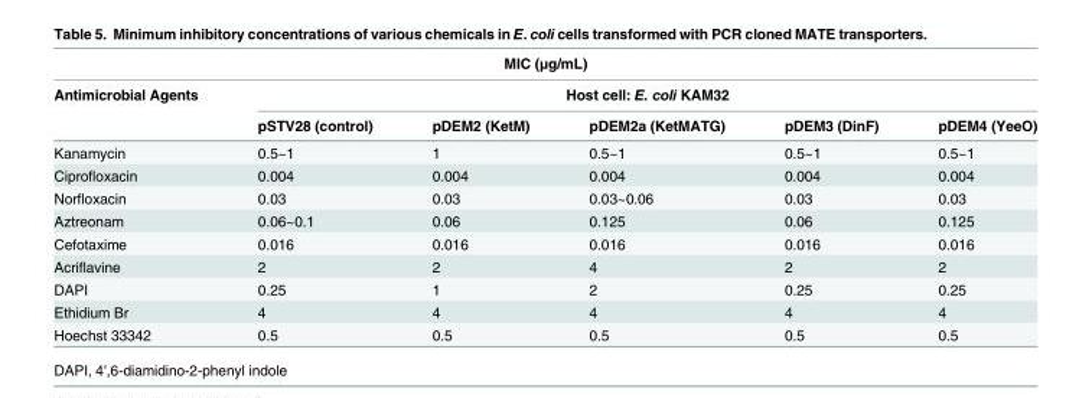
<table><thead><tr><td colspan="6">MIC (μg/mL)</td></tr><tr><td rowspan="2">Antimicrobial Agents</td><td colspan="5">Host cell: E. coli KAM32</td></tr><tr><td>pSTV28 (control)</td><td>pDEM2 (KetM)</td><td>pDEM2a (KetMATG)</td><td>pDEM3 (DinF)</td><td>pDEM4 (YeeO)</td></tr></thead><tbody><tr><td>Kanamycin</td><td>0.5~1</td><td>1</td><td>0.5~1</td><td>0.5~1</td><td>0.5~1</td></tr><tr><td>Ciprofloxacin</td><td>0.004</td><td>0.004</td><td>0.004</td><td>0.004</td><td>0.004</td></tr><tr><td>Norfloxacin</td><td>0.03</td><td>0.03</td><td>0.03~0.06</td><td>0.03</td><td>0.03</td></tr><tr><td>Aztreonam</td><td>0.06~0.1</td><td>0.06</td><td>0.125</td><td>0.06</td><td>0.125</td></tr><tr><td>Cefotaxime</td><td>0.016</td><td>0.016</td><td>0.016</td><td>0.016</td><td>0.016</td></tr><tr><td>Acriflavine</td><td>2</td><td>2</td><td>4</td><td>2</td><td>2</td></tr><tr><td>DAPI</td><td>0.25</td><td>1</td><td>2</td><td>0.25</td><td>0.25</td></tr><tr><td>Ethidium Br</td><td>4</td><td>4</td><td>4</td><td>4</td><td>4</td></tr><tr><td>Hoechst 33342</td><td>0.5</td><td>0.5</td><td>0.5</td><td>0.5</td><td>0.5</td></tr></tbody></table>